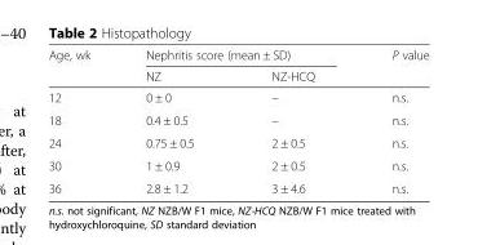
<table><thead><tr><td rowspan="2">Age, wk</td><td colspan="2">Nephritis score (mean ± SD)</td><td rowspan="2">P value</td></tr><tr><td>NZ</td><td>NZ-HCQ</td></tr></thead><tbody><tr><td>12</td><td>0 ± 0</td><td>–</td><td>n.s.</td></tr><tr><td>18</td><td>0.4 ± 0.5</td><td>–</td><td>n.s.</td></tr><tr><td>24</td><td>0.75 ± 0.5</td><td>2 ± 0.5</td><td>n.s.</td></tr><tr><td>30</td><td>1 ± 0.9</td><td>2 ± 0.5</td><td>n.s.</td></tr><tr><td>36</td><td>2.8 ± 1.2</td><td>3 ± 4.6</td><td>n.s.</td></tr></tbody></table>